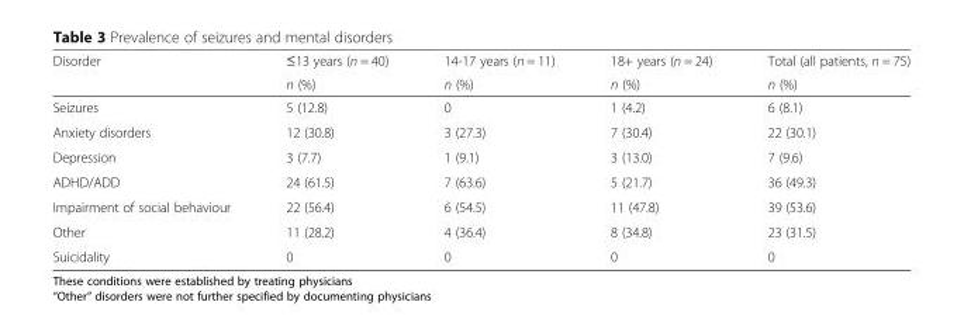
<table><thead><tr><td rowspan="2">Disorder</td><td rowspan="2">≤13 years (n = 40) n (%)</td><td rowspan="2">14-17 years (n = 11) n (%)</td><td rowspan="2">18+ years (n = 24) n (%)</td><td rowspan="2">Total (all patients, n = 75) n (%)</td></tr><tr></tr></thead><tbody><tr><td>Seizures</td><td>5 (12.8)</td><td>0</td><td>1 (4.2)</td><td>6 (8.1)</td></tr><tr><td>Anxiety disorders</td><td>12 (30.8)</td><td>3 (27.3)</td><td>7 (30.4)</td><td>22 (30.1)</td></tr><tr><td>Depression</td><td>3 (7.7)</td><td>1 (9.1)</td><td>3 (13.0)</td><td>7 (9.6)</td></tr><tr><td>ADHD/ADD</td><td>24 (61.5)</td><td>7 (63.6)</td><td>5 (21.7)</td><td>36 (49.3)</td></tr><tr><td>Impairment of social behaviour</td><td>22 (56.4)</td><td>6 (54.5)</td><td>11 (47.8)</td><td>39 (53.6)</td></tr><tr><td>Other</td><td>11 (28.2)</td><td>4 (36.4)</td><td>8 (34.8)</td><td>23 (31.5)</td></tr><tr><td>Suicidality</td><td>0</td><td>0</td><td>0</td><td>0</td></tr></tbody></table>